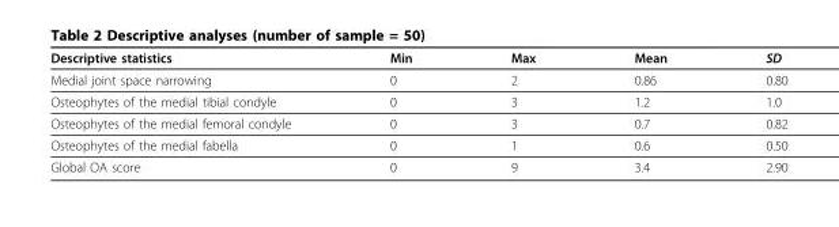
<table><thead><tr><td>Descriptive statistics</td><td>Min</td><td>Max</td><td>Mean</td><td>SD</td></tr></thead><tbody><tr><td>Medial joint space narrowing</td><td>0</td><td>2</td><td>0.86</td><td>0.80</td></tr><tr><td>Osteophytes of the medial tibial condyle</td><td>0</td><td>3</td><td>1.2</td><td>1.0</td></tr><tr><td>Osteophytes of the medial femoral condyle</td><td>0</td><td>3</td><td>0.7</td><td>0.82</td></tr><tr><td>Osteophytes of the medial fabella</td><td>0</td><td>1</td><td>0.6</td><td>0.50</td></tr><tr><td>Global OA score</td><td>0</td><td>9</td><td>3.4</td><td>2.90</td></tr></tbody></table>